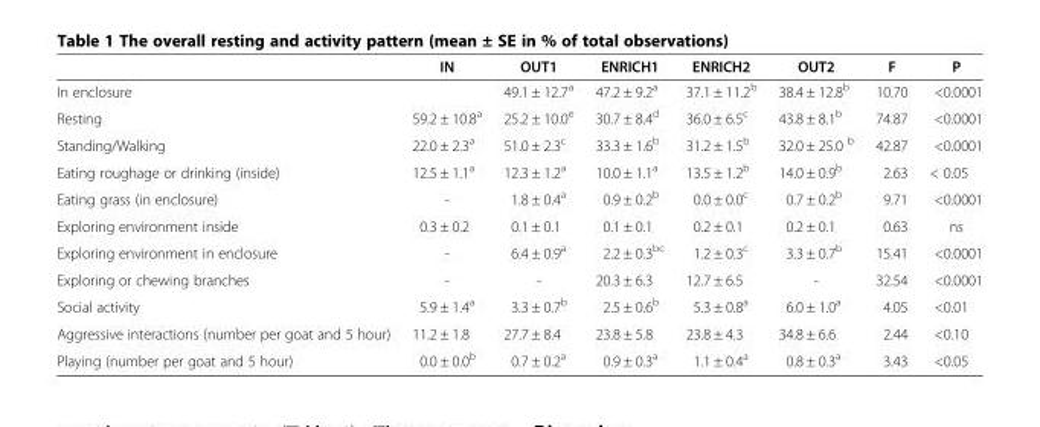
<table><thead><tr><td></td><td>IN</td><td>OUT1</td><td>ENRICH1</td><td>ENRICH2</td><td>OUT2</td><td>F</td><td>P</td></tr></thead><tbody><tr><td>In enclosure</td><td></td><td>49.1 ± 12.7<sup>a</sup></td><td>47.2 ± 9.2<sup>a</sup></td><td>37.1 ± 11.2<sup>b</sup></td><td>38.4 ± 12.8<sup>b</sup></td><td>10.70</td><td>&lt;0.0001</td></tr><tr><td>Resting</td><td>59.2 ± 10.8<sup>a</sup></td><td>25.2 ± 10.0<sup>e</sup></td><td>30.7 ± 8.4<sup>d</sup></td><td>36.0 ± 6.5<sup>c</sup></td><td>43.8 ± 8.1<sup>b</sup></td><td>74.87</td><td>&lt;0.0001</td></tr><tr><td>Standing/Walking</td><td>22.0 ± 2.3<sup>a</sup></td><td>51.0 ± 2.3<sup>c</sup></td><td>33.3 ± 1.6<sup>b</sup></td><td>31.2 ± 1.5<sup>b</sup></td><td>32.0 ± 25.0 <sup>b</sup></td><td>42.87</td><td>&lt;0.0001</td></tr><tr><td>Eating roughage or drinking (inside)</td><td>12.5 ± 1.1<sup>a</sup></td><td>12.3 ± 1.2<sup>a</sup></td><td>10.0 ± 1.1<sup>a</sup></td><td>13.5 ± 1.2<sup>b</sup></td><td>14.0 ± 0.9<sup>b</sup></td><td>2.63</td><td>&lt; 0.05</td></tr><tr><td>Eating grass (in enclosure)</td><td>-</td><td>1.8 ± 0.4<sup>a</sup></td><td>0.9 ± 0.2<sup>b</sup></td><td>0.0 ± 0.0<sup>c</sup></td><td>0.7 ± 0.2<sup>b</sup></td><td>9.71</td><td>&lt;0.0001</td></tr><tr><td>Exploring environment inside</td><td>0.3 ± 0.2</td><td>0.1 ± 0.1</td><td>0.1 ± 0.1</td><td>0.2 ± 0.1</td><td>0.2 ± 0.1</td><td>0.63</td><td>ns</td></tr><tr><td>Exploring environment in enclosure</td><td>-</td><td>6.4 ± 0.9<sup>a</sup></td><td>2.2 ± 0.3<sup>bc</sup></td><td>1.2 ± 0.3<sup>c</sup></td><td>3.3 ± 0.7<sup>b</sup></td><td>15.41</td><td>&lt;0.0001</td></tr><tr><td>Exploring or chewing branches</td><td>-</td><td>-</td><td>20.3 ± 6.3</td><td>12.7 ± 6.5</td><td>-</td><td>32.54</td><td>&lt;0.0001</td></tr><tr><td>Social activity</td><td>5.9 ± 1.4<sup>a</sup></td><td>3.3 ± 0.7<sup>b</sup></td><td>2.5 ± 0.6<sup>b</sup></td><td>5.3 ± 0.8<sup>a</sup></td><td>6.0 ± 1.0<sup>a</sup></td><td>4.05</td><td>&lt;0.01</td></tr><tr><td>Aggressive interactions (number per goat and 5 hour)</td><td>11.2 ± 1.8</td><td>27.7 ± 8.4</td><td>23.8 ± 5.8</td><td>23.8 ± 4.3</td><td>34.8 ± 6.6</td><td>2.44</td><td>&lt;0.10</td></tr><tr><td>Playing (number per goat and 5 hour)</td><td>0.0 ± 0.0<sup>b</sup></td><td>0.7 ± 0.2<sup>a</sup></td><td>0.9 ± 0.3<sup>a</sup></td><td>1.1 ± 0.4<sup>a</sup></td><td>0.8 ± 0.3<sup>a</sup></td><td>3.43</td><td>&lt;0.05</td></tr></tbody></table>